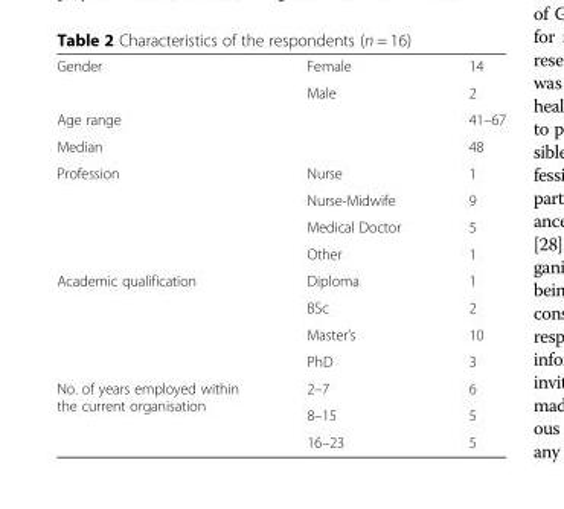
<table><tbody><tr><td rowspan="2">Gender</td><td>Female</td><td>14</td></tr><tr><td>Male</td><td>2</td></tr><tr><td>Age range</td><td rowspan="2"></td><td>41–67</td></tr><tr><td>Median</td><td>48</td></tr><tr><td rowspan="4">Profession</td><td>Nurse</td><td>1</td></tr><tr><td>Nurse-Midwife</td><td>9</td></tr><tr><td>Medical Doctor</td><td>5</td></tr><tr><td>Other</td><td>1</td></tr><tr><td rowspan="4">Academic qualification</td><td>Diploma</td><td>1</td></tr><tr><td>BSc</td><td>2</td></tr><tr><td>Master’s</td><td>10</td></tr><tr><td>PhD</td><td>3</td></tr><tr><td rowspan="3">No. of years employed within the current organisation</td><td>2–7</td><td>6</td></tr><tr><td>8–15</td><td>5</td></tr><tr><td>16–23</td><td>5</td></tr></tbody></table>